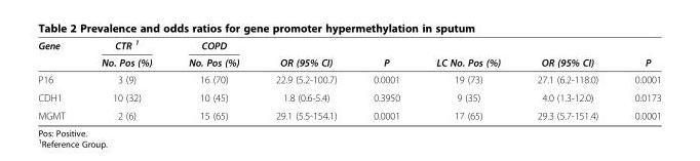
<table><thead><tr><td rowspan="2">Gene</td><td rowspan="2">CTR <sup>1</sup> No. Pos (%)</td><td rowspan="2">COPD No. Pos (%)</td><td rowspan="2">OR (95% CI)</td><td rowspan="2">P</td><td rowspan="2">LC No. Pos (%)</td><td rowspan="2">OR (95% CI)</td><td rowspan="2">P</td></tr><tr></tr></thead><tbody><tr><td>P16</td><td>3 (9)</td><td>16 (70)</td><td>22.9 (5.2-100.7)</td><td>0.0001</td><td>19 (73)</td><td>27.1 (6.2-118.0)</td><td>0.0001</td></tr><tr><td>CDH1</td><td>10 (32)</td><td>10 (45)</td><td>1.8 (0.6-5.4)</td><td>0.3950</td><td>9 (35)</td><td>4.0 (1.3-12.0)</td><td>0.0173</td></tr><tr><td>MGMT</td><td>2 (6)</td><td>15 (65)</td><td>29.1 (5.5-154.1)</td><td>0.0001</td><td>17 (65)</td><td>29.3 (5.7-151.4)</td><td>0.0001</td></tr></tbody></table>